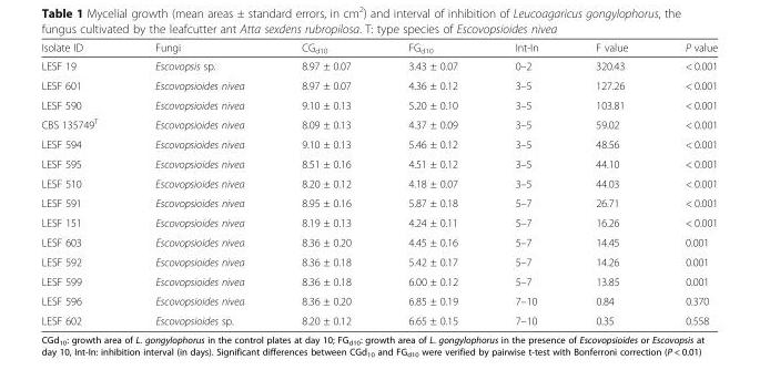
<table><thead><tr><td>Isolate ID</td><td>Fungi</td><td>CG<sub>d10</sub></td><td>FG<sub>d10</sub></td><td>Int-In</td><td>F value</td><td>P value</td></tr></thead><tbody><tr><td>LESF 19</td><td>Escovopsis sp.</td><td>8.97 ± 0.07</td><td>3.43 ± 0.07</td><td>0–2</td><td>320.43</td><td>&lt; 0.001</td></tr><tr><td>LESF 601</td><td>Escovopsioides nivea</td><td>8.97 ± 0.07</td><td>4.36 ± 0.12</td><td>3–5</td><td>127.26</td><td>&lt; 0.001</td></tr><tr><td>LESF 590</td><td>Escovopsioides nivea</td><td>9.10 ± 0.13</td><td>5.20 ± 0.10</td><td>3–5</td><td>103.81</td><td>&lt; 0.001</td></tr><tr><td>CBS 135749<sup>T</sup></td><td>Escovopsioides nivea</td><td>8.09 ± 0.13</td><td>4.37 ± 0.09</td><td>3–5</td><td>59.02</td><td>&lt; 0.001</td></tr><tr><td>LESF 594</td><td>Escovopsioides nivea</td><td>9.10 ± 0.13</td><td>5.46 ± 0.12</td><td>3–5</td><td>48.56</td><td>&lt; 0.001</td></tr><tr><td>LESF 595</td><td>Escovopsioides nivea</td><td>8.51 ± 0.16</td><td>4.51 ± 0.12</td><td>3–5</td><td>44.10</td><td>&lt; 0.001</td></tr><tr><td>LESF 510</td><td>Escovopsioides nivea</td><td>8.20 ± 0.12</td><td>4.18 ± 0.07</td><td>3–5</td><td>44.03</td><td>&lt; 0.001</td></tr><tr><td>LESF 591</td><td>Escovopsioides nivea</td><td>8.95 ± 0.16</td><td>5.87 ± 0.18</td><td>5–7</td><td>26.71</td><td>&lt; 0.001</td></tr><tr><td>LESF 151</td><td>Escovopsioides nivea</td><td>8.19 ± 0.13</td><td>4.24 ± 0.11</td><td>5–7</td><td>16.26</td><td>&lt; 0.001</td></tr><tr><td>LESF 603</td><td>Escovopsioides nivea</td><td>8.36 ± 0.20</td><td>4.45 ± 0.16</td><td>5–7</td><td>14.45</td><td>0.001</td></tr><tr><td>LESF 592</td><td>Escovopsioides nivea</td><td>8.36 ± 0.18</td><td>5.42 ± 0.17</td><td>5–7</td><td>14.26</td><td>0.001</td></tr><tr><td>LESF 599</td><td>Escovopsioides nivea</td><td>8.36 ± 0.18</td><td>6.00 ± 0.12</td><td>5–7</td><td>13.85</td><td>0.001</td></tr><tr><td>LESF 596</td><td>Escovopsioides nivea</td><td>8.36 ± 0.20</td><td>6.85 ± 0.19</td><td>7–10</td><td>0.84</td><td>0.370</td></tr><tr><td>LESF 602</td><td>Escovopsioides sp.</td><td>8.20 ± 0.12</td><td>6.65 ± 0.15</td><td>7–10</td><td>0.35</td><td>0.558</td></tr></tbody></table>